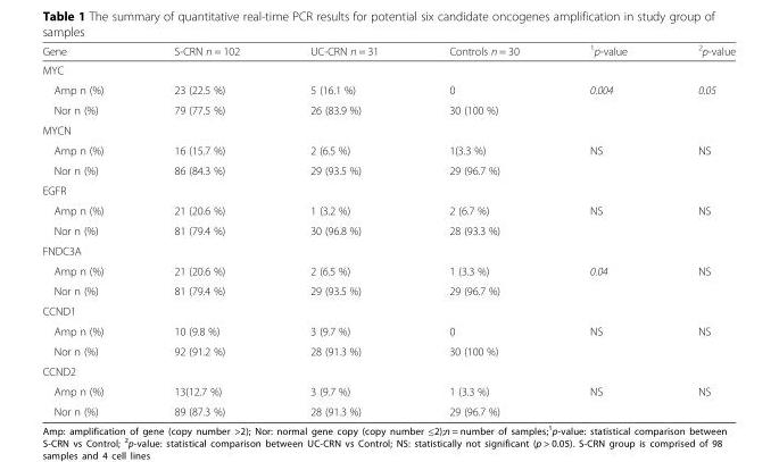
<table><thead><tr><td>Gene</td><td>S-CRN n = 102</td><td>UC-CRN n = 31</td><td>Controls n = 30</td><td><sup>1</sup>p-value</td><td><sup>2</sup>p-value</td></tr></thead><tbody><tr><td colspan="6">MYC</td></tr><tr><td>Amp n (%)</td><td>23 (22.5 %)</td><td>5 (16.1 %)</td><td>0</td><td>0.004</td><td>0.05</td></tr><tr><td>Nor n (%)</td><td>79 (77.5 %)</td><td>26 (83.9 %)</td><td>30 (100 %)</td><td></td><td></td></tr><tr><td colspan="6">MYCN</td></tr><tr><td>Amp n (%)</td><td>16 (15.7 %)</td><td>2 (6.5 %)</td><td>1(3.3 %)</td><td>NS</td><td>NS</td></tr><tr><td>Nor n (%)</td><td>86 (84.3 %)</td><td>29 (93.5 %)</td><td>29 (96.7 %)</td><td></td><td></td></tr><tr><td colspan="6">EGFR</td></tr><tr><td>Amp n (%)</td><td>21 (20.6 %)</td><td>1 (3.2 %)</td><td>2 (6.7 %)</td><td>NS</td><td>NS</td></tr><tr><td>Nor n (%)</td><td>81 (79.4 %)</td><td>30 (96.8 %)</td><td>28 (93.3 %)</td><td></td><td></td></tr><tr><td colspan="6">FNDC3A</td></tr><tr><td>Amp n (%)</td><td>21 (20.6 %)</td><td>2 (6.5 %)</td><td>1 (3.3 %)</td><td>0.04</td><td>NS</td></tr><tr><td>Nor n (%)</td><td>81 (79.4 %)</td><td>29 (93.5 %)</td><td>29 (96.7 %)</td><td></td><td></td></tr><tr><td colspan="6">CCND1</td></tr><tr><td>Amp n (%)</td><td>10 (9.8 %)</td><td>3 (9.7 %)</td><td>0</td><td>NS</td><td>NS</td></tr><tr><td>Nor n (%)</td><td>92 (91.2 %)</td><td>28 (91.3 %)</td><td>30 (100 %)</td><td></td><td></td></tr><tr><td colspan="6">CCND2</td></tr><tr><td>Amp n (%)</td><td>13(12.7 %)</td><td>3 (9.7 %)</td><td>1 (3.3 %)</td><td>NS</td><td>NS</td></tr><tr><td>Nor n (%)</td><td>89 (87.3 %)</td><td>28 (91.3 %)</td><td>29 (96.7 %)</td><td></td><td></td></tr></tbody></table>